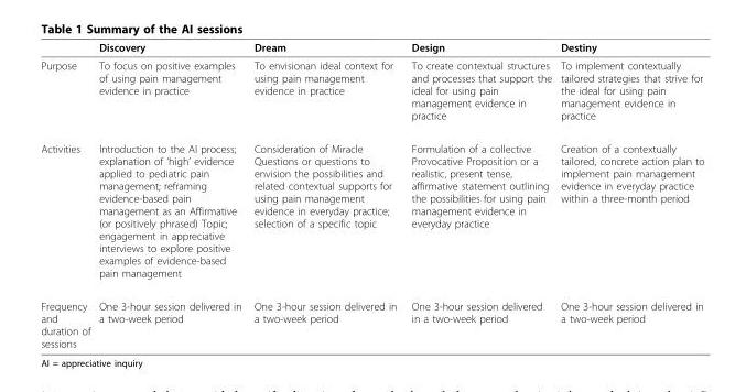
<table><thead><tr><td></td><td>Discovery</td><td>Dream</td><td>Design</td><td>Destiny</td></tr></thead><tbody><tr><td>Purpose</td><td>To focus on positive examples of using pain management evidence in practice</td><td>To envisionan ideal context for using pain management evidence in practice</td><td>To create contextual structures and processes that support the ideal for using pain management evidence in practice</td><td>To implement contextually tailored strategies that strive for the ideal for using pain management evidence in practice</td></tr><tr><td>Activities</td><td>Introduction to the AI process; explanation of ‘high’ evidence applied to pediatric pain management; reframing evidence-based pain management as an Affirmative (or positively phrased) Topic; engagement in appreciative interviews to explore positive examples of evidence-based pain management</td><td>Consideration of Miracle Questions or questions to envision the possibilities and related contextual supports for using pain management evidence in everyday practice; selection of a specific topic</td><td>Formulation of a collective Provocative Proposition or a realistic, present tense, affirmative statement outlining the possibilities for using pain management evidence in everyday practice</td><td>Creation of a contextually tailored, concrete action plan to implement pain management evidence in everyday practice within a three-month period</td></tr><tr><td>Frequency and duration of sessions</td><td>One 3-hour session delivered in a two-week period</td><td>One 3-hour session delivered in a two-week period</td><td>One 3-hour session delivered in a two-week period</td><td>One 3-hour session delivered in a two-week period</td></tr></tbody></table>